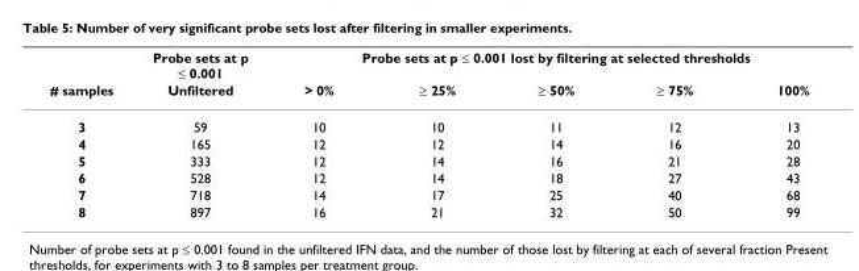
<table><thead><tr><td rowspan="2"># samples</td><td rowspan="2">Probe sets at p ≤ 0.001 Unfiltered</td><td colspan="5">Probe sets at p ≤ 0.001 lost by filtering at selected thresholds</td></tr><tr><td>&gt; 0%</td><td>≥ 25%</td><td>≥ 50%</td><td>≥ 75%</td><td>100%</td></tr></thead><tbody><tr><td>3</td><td>59</td><td>10</td><td>10</td><td>11</td><td>12</td><td>13</td></tr><tr><td>4</td><td>165</td><td>12</td><td>12</td><td>14</td><td>16</td><td>20</td></tr><tr><td>5</td><td>333</td><td>12</td><td>14</td><td>16</td><td>21</td><td>28</td></tr><tr><td>6</td><td>528</td><td>12</td><td>14</td><td>18</td><td>27</td><td>43</td></tr><tr><td>7</td><td>718</td><td>14</td><td>17</td><td>25</td><td>40</td><td>68</td></tr><tr><td>8</td><td>897</td><td>16</td><td>21</td><td>32</td><td>50</td><td>99</td></tr></tbody></table>